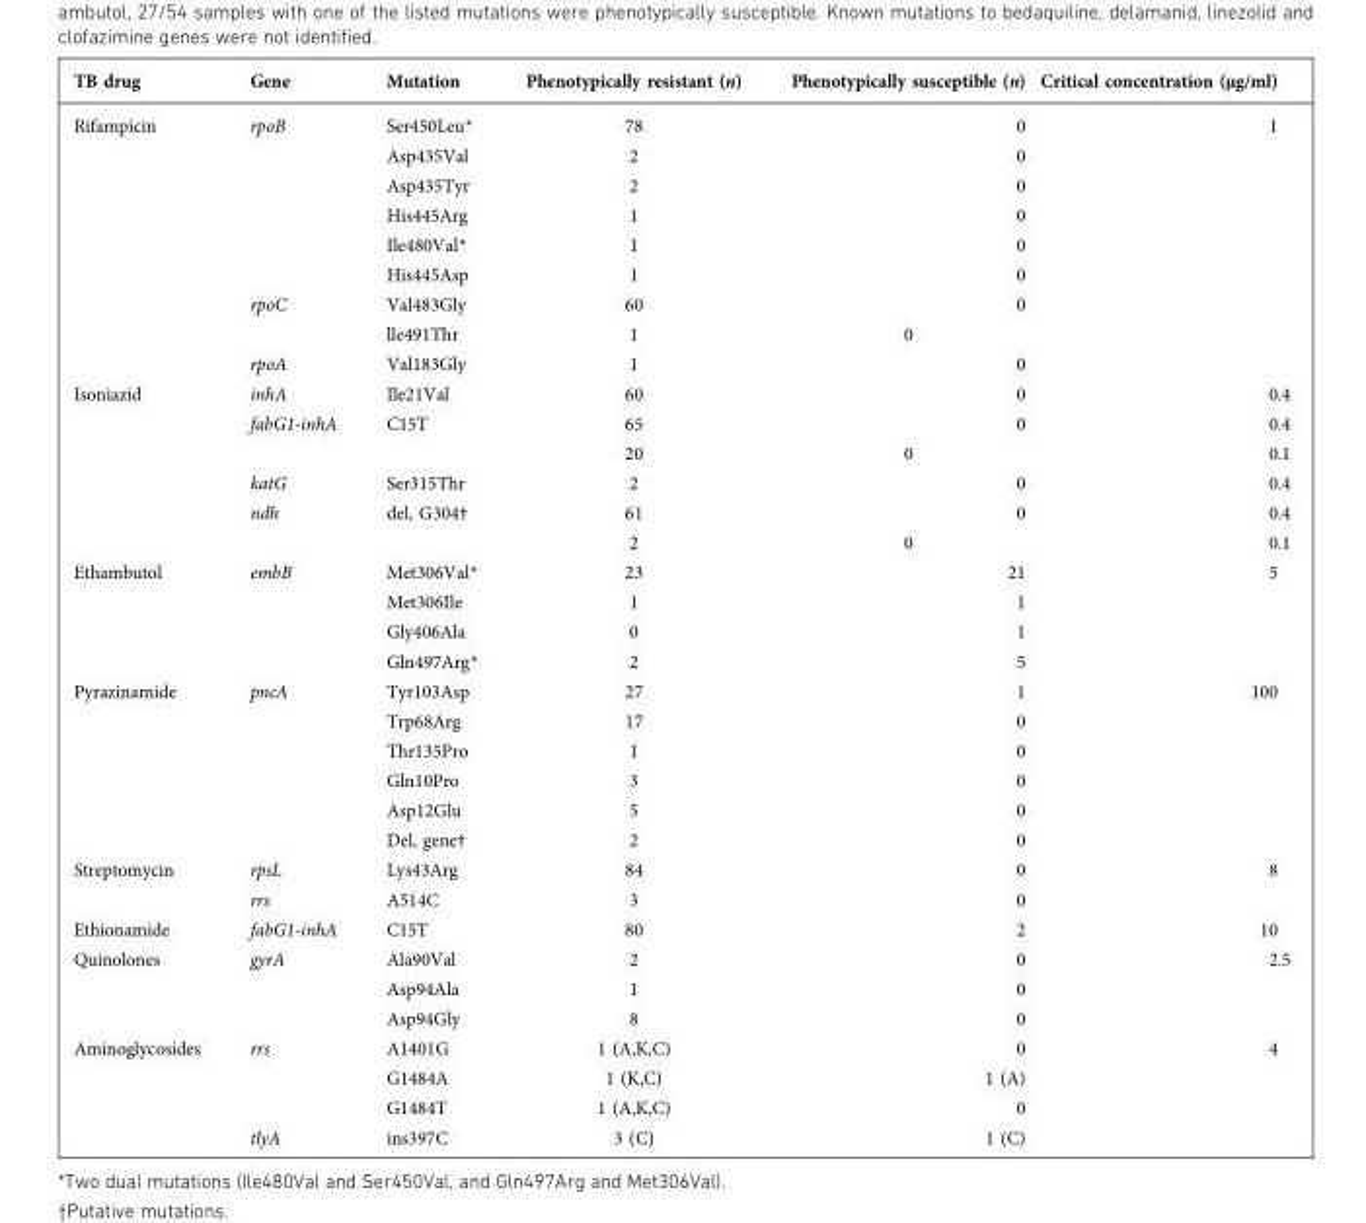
<table><thead><tr><td>TB drug</td><td>Gene</td><td>Mutation</td><td>Phenotypically resistant (n)</td><td>Phenotypically susceptible (n)</td><td>Critical concentration (µg/ml)</td></tr></thead><tbody><tr><td rowspan="9">Rifampicin</td><td rowspan="6">rpoB</td><td>Ser450Leu*</td><td>78</td><td>0</td><td rowspan="9">1</td></tr><tr><td>Asp435Val</td><td>2</td><td>0</td></tr><tr><td>Asp435Tyr</td><td>2</td><td>0</td></tr><tr><td>His445Arg</td><td>1</td><td>0</td></tr><tr><td>Ile480Val*</td><td>1</td><td>0</td></tr><tr><td>His445Asp</td><td>1</td><td>0</td></tr><tr><td rowspan="2">rpoC</td><td>Val483Gly</td><td>60</td><td>0</td></tr><tr><td>lle491Thr</td><td>1</td><td>0</td></tr><tr><td>rpoA</td><td>Val183Gly</td><td>1</td><td>0</td></tr><tr><td rowspan="6">Isoniazid</td><td>inhA</td><td>Ile21Val</td><td>60</td><td>0</td><td>0.4</td></tr><tr><td rowspan="2">fabG1-inhA</td><td rowspan="2">C15T</td><td>65</td><td>0</td><td>0.4</td></tr><tr><td>20</td><td>0</td><td>0.1</td></tr><tr><td>katG</td><td>Ser315Thr</td><td>2</td><td>0</td><td>0.4</td></tr><tr><td rowspan="2">ndh</td><td rowspan="2">del, G304†</td><td>61</td><td>0</td><td>0.4</td></tr><tr><td>2</td><td>0</td><td>0.1</td></tr><tr><td rowspan="4">Ethambutol</td><td rowspan="4">embB</td><td>Met306Val*</td><td>23</td><td>21</td><td rowspan="4">5</td></tr><tr><td>Met306Ile</td><td>1</td><td>1</td></tr><tr><td>Gly406Ala</td><td>0</td><td>1</td></tr><tr><td>Gln497Arg*</td><td>2</td><td>5</td></tr><tr><td rowspan="6">Pyrazinamide</td><td rowspan="6">pncA</td><td>Tyr103Asp</td><td>27</td><td>1</td><td rowspan="6">100</td></tr><tr><td>Trp68Arg</td><td>17</td><td>0</td></tr><tr><td>Thr135Pro</td><td>1</td><td>0</td></tr><tr><td>Gln10Pro</td><td>3</td><td>0</td></tr><tr><td>Asp12Glu</td><td>5</td><td>0</td></tr><tr><td>Del, gene†</td><td>2</td><td>0</td></tr><tr><td rowspan="2">Streptomycin</td><td>rpsL</td><td>Lys43Arg</td><td>84</td><td>0</td><td rowspan="2">8</td></tr><tr><td>rrs</td><td>A514C</td><td>3</td><td>0</td></tr><tr><td>Ethionamide</td><td>fabG1-inhA</td><td>C15T</td><td>80</td><td>2</td><td>10</td></tr><tr><td rowspan="3">Quinolones</td><td rowspan="3">gyrA</td><td>Ala90Val</td><td>2</td><td>0</td><td rowspan="3">2.5</td></tr><tr><td>Asp94Ala</td><td>1</td><td>0</td></tr><tr><td>Asp94Gly</td><td>8</td><td>0</td></tr><tr><td rowspan="4">Aminoglycosides</td><td rowspan="3">rrs</td><td>A1401G</td><td>1 (A,K,C)</td><td>0</td><td rowspan="4">4</td></tr><tr><td>G1484A</td><td>1 (K,C)</td><td>1 (A)</td></tr><tr><td>G1484T</td><td>1 (A,K,C)</td><td>0</td></tr><tr><td>tlyA</td><td>ins397C</td><td>3 (C)</td><td>1 (C)</td></tr></tbody></table>